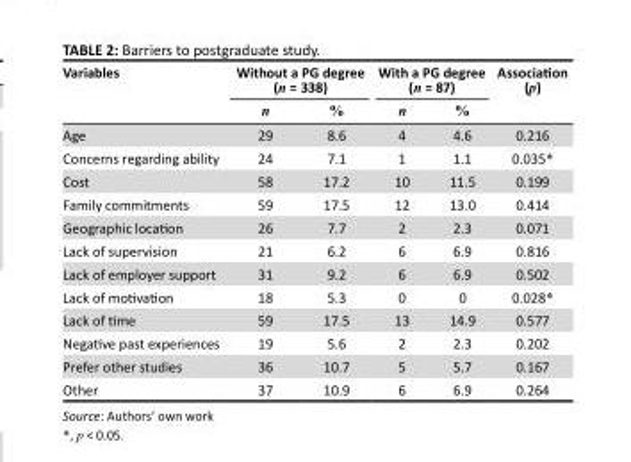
<table><thead><tr><td rowspan="2">Variables</td><td colspan="2">Without a PG degree (n = 338)</td><td colspan="2">With a PG degree (n = 87)</td><td rowspan="2">Association (p)</td></tr><tr><td>n</td><td>%</td><td>n</td><td>%</td></tr></thead><tbody><tr><td>Age</td><td>29</td><td>8.6</td><td>4</td><td>4.6</td><td>0.216</td></tr><tr><td>Concerns regarding ability</td><td>24</td><td>7.1</td><td>1</td><td>1.1</td><td>0.035*</td></tr><tr><td>Cost</td><td>58</td><td>17.2</td><td>10</td><td>11.5</td><td>0.199</td></tr><tr><td>Family commitments</td><td>59</td><td>17.5</td><td>12</td><td>13.0</td><td>0.414</td></tr><tr><td>Geographic location</td><td>26</td><td>7.7</td><td>2</td><td>2.3</td><td>0.071</td></tr><tr><td>Lack of supervision</td><td>21</td><td>6.2</td><td>6</td><td>6.9</td><td>0.816</td></tr><tr><td>Lack of employer support</td><td>31</td><td>9.2</td><td>6</td><td>6.9</td><td>0.502</td></tr><tr><td>Lack of motivation</td><td>18</td><td>5.3</td><td>0</td><td>0</td><td>0.028*</td></tr><tr><td>Lack of time</td><td>59</td><td>17.5</td><td>13</td><td>14.9</td><td>0.577</td></tr><tr><td>Negative past experiences</td><td>19</td><td>5.6</td><td>2</td><td>2.3</td><td>0.202</td></tr><tr><td>Prefer other studies</td><td>36</td><td>10.7</td><td>5</td><td>5.7</td><td>0.167</td></tr><tr><td>Other</td><td>37</td><td>10.9</td><td>6</td><td>6.9</td><td>0.264</td></tr></tbody></table>